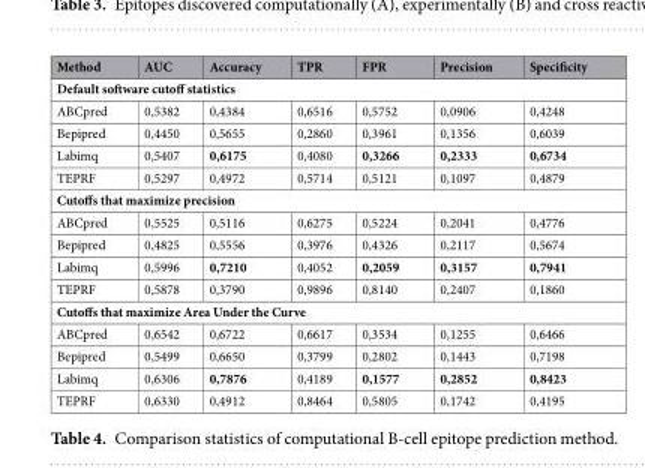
<table><thead><tr><td>Method</td><td>AUC</td><td>Accuracy</td><td>TPR</td><td>FPR</td><td>Precision</td><td>Specificity</td></tr></thead><tbody><tr><td colspan="7">Default software cutoff statistics</td></tr><tr><td>ABCpred</td><td>0,5382</td><td>0,4384</td><td>0,6516</td><td>0,5752</td><td>0,0906</td><td>0,4248</td></tr><tr><td>Bepipred</td><td>0,4450</td><td>0,5655</td><td>0,2860</td><td>0,3961</td><td>0,1356</td><td>0,6039</td></tr><tr><td>Labimq</td><td>0,5407</td><td>0,6175</td><td>0,4080</td><td>0,3266</td><td>0,2333</td><td>0,6734</td></tr><tr><td>TEPRF</td><td>0,5297</td><td>0,4972</td><td>0,5714</td><td>0,5121</td><td>0,1097</td><td>0,4879</td></tr><tr><td colspan="7">Cutoffs that maximize precision</td></tr><tr><td>ABCpred</td><td>0,5525</td><td>0,5116</td><td>0,6275</td><td>0,5224</td><td>0,2041</td><td>0,4776</td></tr><tr><td>Bepipred</td><td>0,4825</td><td>0,5556</td><td>0,3976</td><td>0,4326</td><td>0,2117</td><td>0,5674</td></tr><tr><td>Labimq</td><td>0,5996</td><td>0,7210</td><td>0,4052</td><td>0,2059</td><td>0,3157</td><td>0,7941</td></tr><tr><td>TEPRF</td><td>0,5878</td><td>0,3790</td><td>0,9896</td><td>0,8140</td><td>0,2407</td><td>0,1860</td></tr><tr><td colspan="7">Cutoffs that maximize Area Under the Curve</td></tr><tr><td>ABCpred</td><td>0,6542</td><td>0,6722</td><td>0,6617</td><td>0,3534</td><td>0,1255</td><td>0,6466</td></tr><tr><td>Bepipred</td><td>0,5499</td><td>0,6650</td><td>0,3799</td><td>0,2802</td><td>0,1443</td><td>0,7198</td></tr><tr><td>Labimq</td><td>0,6306</td><td>0,7876</td><td>0,4189</td><td>0,1577</td><td>0,2852</td><td>0,8423</td></tr><tr><td>TEPRF</td><td>0,6330</td><td>0,4912</td><td>0,8464</td><td>0,5805</td><td>0,1742</td><td>0,4195</td></tr></tbody></table>